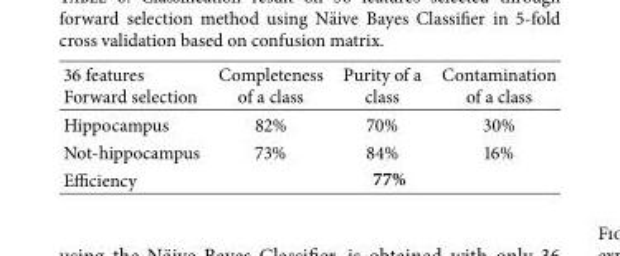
<table><thead><tr><td>36 features Forward selection</td><td>Completeness of a class</td><td>Purity of a class</td><td>Contamination of a class</td></tr></thead><tbody><tr><td>Hippocampus</td><td>82%</td><td>70%</td><td>30%</td></tr><tr><td>Not-hippocampus</td><td>73%</td><td>84%</td><td>16%</td></tr><tr><td>Efficiency</td><td colspan="3">77%</td></tr></tbody></table>